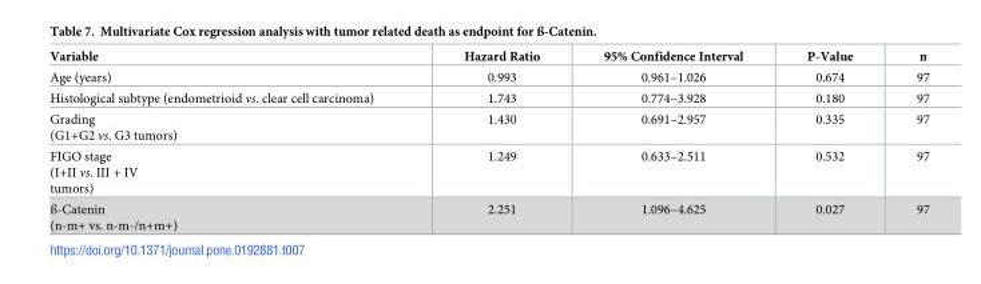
<table><thead><tr><td>Variable</td><td>Hazard Ratio</td><td>95% Confidence Interval</td><td>P-Value</td><td>n</td></tr></thead><tbody><tr><td>Age (years)</td><td>0.993</td><td>0.961–1.026</td><td>0.674</td><td>97</td></tr><tr><td>Histological subtype (endometrioid vs. clear cell carcinoma)</td><td>1.743</td><td>0.774–3.928</td><td>0.180</td><td>97</td></tr><tr><td>Grading (G1+G2 vs. G3 tumors)</td><td>1.430</td><td>0.691–2.957</td><td>0.335</td><td>97</td></tr><tr><td>FIGO stage (I+II vs. III + IV tumors)</td><td>1.249</td><td>0.633–2.511</td><td>0.532</td><td>97</td></tr><tr><td>ß-Catenin (n-m+ vs. n-m-/n+m+)</td><td>2.251</td><td>1.096–4.625</td><td>0.027</td><td>97</td></tr></tbody></table>